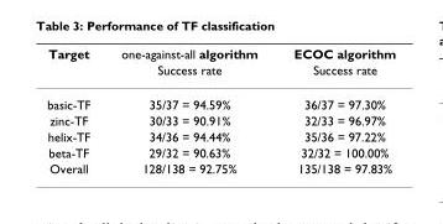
<table><thead><tr><td rowspan="2">Target</td><td rowspan="2">one-against-all algorithm Success rate</td><td rowspan="2">ECOC algorithm Success rate</td></tr><tr></tr></thead><tbody><tr><td>basic-TF</td><td>35/37 = 94.59%</td><td>36/37 = 97.30%</td></tr><tr><td>zinc-TF</td><td>30/33 = 90.91%</td><td>32/33 = 96.97%</td></tr><tr><td>helix-TF</td><td>34/36 = 94.44%</td><td>35/36 = 97.22%</td></tr><tr><td>beta-TF</td><td>29/32 = 90.63%</td><td>32/32 = 100.00%</td></tr><tr><td>Overall</td><td>128/138 = 92.75%</td><td>135/138 = 97.83%</td></tr></tbody></table>